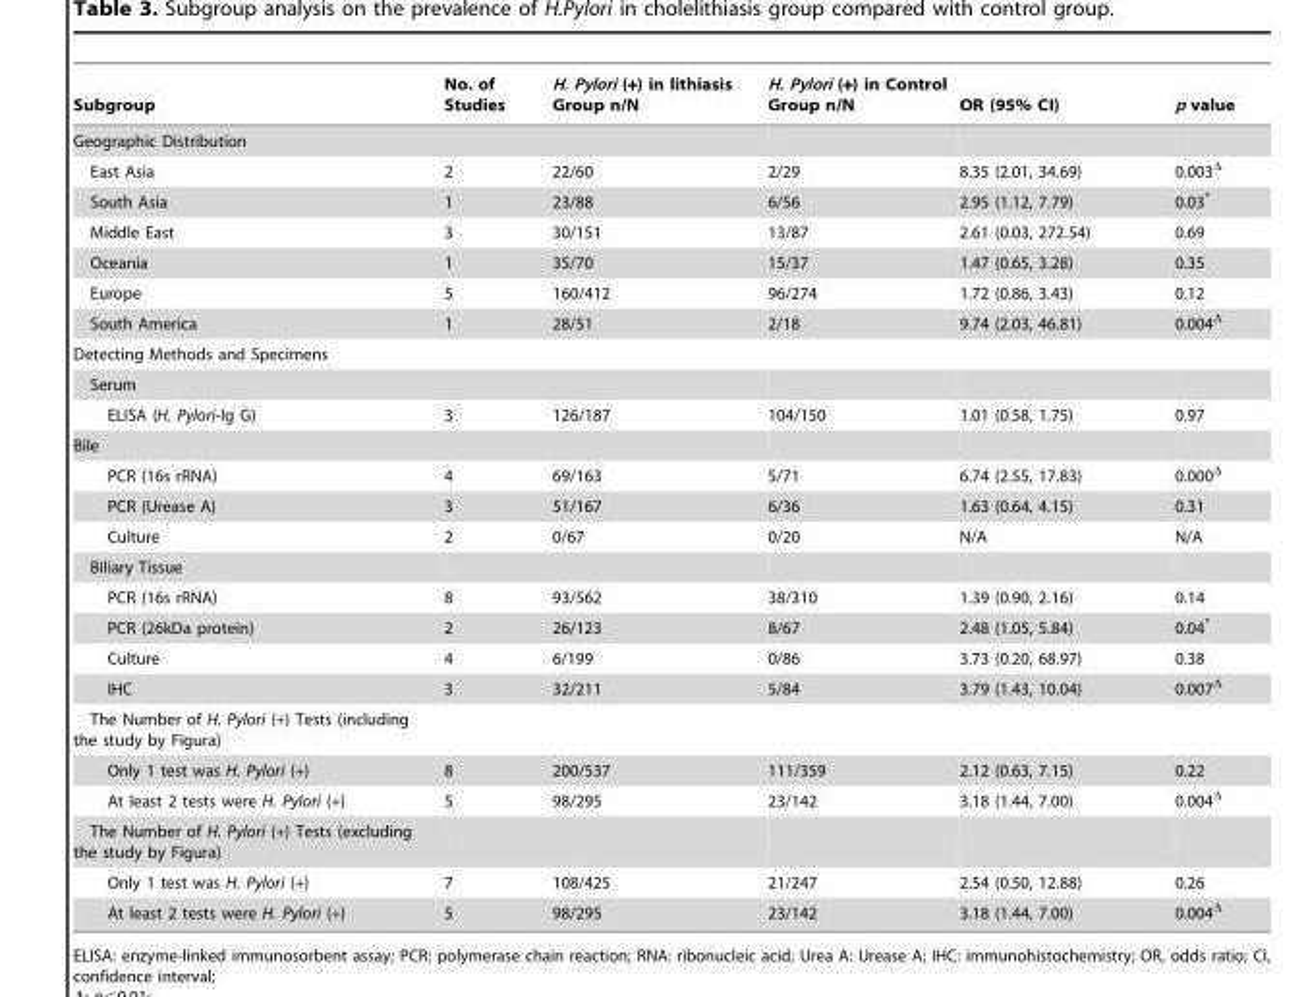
<table><thead><tr><td>Subgroup</td><td>No. of Studies</td><td>H. Pylori (+) in lithiasis Group n/N</td><td>H. Pylori (+) in Control Group n/N</td><td>OR (95% CI)</td><td>p value</td></tr></thead><tbody><tr><td colspan="6">Geographic Distribution</td></tr><tr><td>East Asia</td><td>2</td><td>22/60</td><td>2/29</td><td>8.35 (2.01, 34.69)</td><td>0.003Δ</td></tr><tr><td>South Asia</td><td>1</td><td>23/88</td><td>6/56</td><td>2.95 (1.12, 7.79)</td><td>0.03*</td></tr><tr><td>Middle East</td><td>3</td><td>30/151</td><td>13/87</td><td>2.61 (0.03, 272.54)</td><td>0.69</td></tr><tr><td>Oceania</td><td>1</td><td>35/70</td><td>15/37</td><td>1.47 (0.65, 3.28)</td><td>0.35</td></tr><tr><td>Europe</td><td>5</td><td>160/412</td><td>96/274</td><td>1.72 (0.86, 3.43)</td><td>0.12</td></tr><tr><td>South America</td><td>1</td><td>28/51</td><td>2/18</td><td>9.74 (2.03, 46.81)</td><td>0.004Δ</td></tr><tr><td colspan="6">Detecting Methods and Specimens</td></tr><tr><td colspan="6">Serum</td></tr><tr><td>ELISA (H. Pylori-Ig G)</td><td>3</td><td>126/187</td><td>104/150</td><td>1.01 (0.58, 1.75)</td><td>0.97</td></tr><tr><td colspan="6">Bile</td></tr><tr><td>PCR (16s rRNA)</td><td>4</td><td>69/163</td><td>5/71</td><td>6.74 (2.55, 17.83)</td><td>0.000Δ</td></tr><tr><td>PCR (Urease A)</td><td>3</td><td>51/167</td><td>6/36</td><td>1.63 (0.64, 4.15)</td><td>0.31</td></tr><tr><td>Culture</td><td>2</td><td>0/67</td><td>0/20</td><td>N/A</td><td>N/A</td></tr><tr><td colspan="6">Biliary Tissue</td></tr><tr><td>PCR (16s rRNA)</td><td>8</td><td>93/562</td><td>38/310</td><td>1.39 (0.90, 2.16)</td><td>0.14</td></tr><tr><td>PCR (26kDa protein)</td><td>2</td><td>26/123</td><td>8/67</td><td>2.48 (1.05, 5.84)</td><td>0.04*</td></tr><tr><td>Culture</td><td>4</td><td>6/199</td><td>0/86</td><td>3.73 (0.20, 68.97)</td><td>0.38</td></tr><tr><td>IHC</td><td>3</td><td>32/211</td><td>5/84</td><td>3.79 (1.43, 10.04)</td><td>0.007Δ</td></tr><tr><td colspan="6">The Number of H. Pylori (+) Tests (including the study by Figura)</td></tr><tr><td>Only 1 test was H. Pylori (+)</td><td>8</td><td>200/537</td><td>111/359</td><td>2.12 (0.63, 7.15)</td><td>0.22</td></tr><tr><td>At least 2 tests were H. Pylori (+)</td><td>5</td><td>98/295</td><td>23/142</td><td>3.18 (1.44, 7.00)</td><td>0.004Δ</td></tr><tr><td colspan="6">The Number of H. Pylori (+) Tests (excluding the study by Figura)</td></tr><tr><td>Only 1 test was H. Pylori (+)</td><td>7</td><td>108/425</td><td>21/247</td><td>2.54 (0.50, 12.88)</td><td>0.26</td></tr><tr><td>At least 2 tests were H. Pylori (+)</td><td>5</td><td>98/295</td><td>23/142</td><td>3.18 (1.44, 7.00)</td><td>0.004Δ</td></tr></tbody></table>